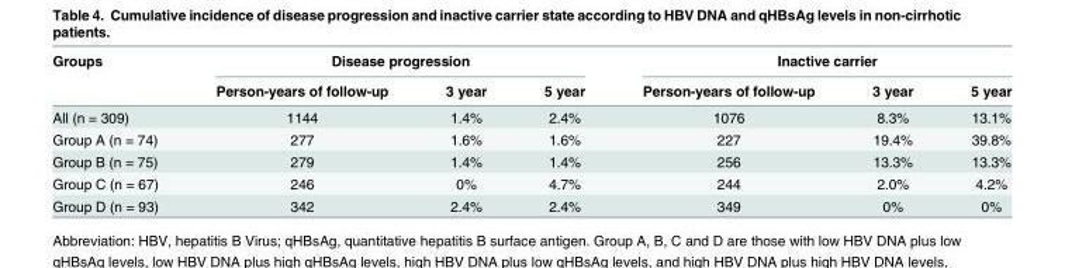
<table><thead><tr><td rowspan="2">Groups</td><td colspan="3">Disease progression</td><td colspan="3">Inactive carrier</td></tr><tr><td>Person-years of follow-up</td><td>3 year</td><td>5 year</td><td>Person-years of follow-up</td><td>3 year</td><td>5 year</td></tr></thead><tbody><tr><td>All (n = 309)</td><td>1144</td><td>1.4%</td><td>2.4%</td><td>1076</td><td>8.3%</td><td>13.1%</td></tr><tr><td>Group A (n = 74)</td><td>277</td><td>1.6%</td><td>1.6%</td><td>227</td><td>19.4%</td><td>39.8%</td></tr><tr><td>Group B (n = 75)</td><td>279</td><td>1.4%</td><td>1.4%</td><td>256</td><td>13.3%</td><td>13.3%</td></tr><tr><td>Group C (n = 67)</td><td>246</td><td>0%</td><td>4.7%</td><td>244</td><td>2.0%</td><td>4.2%</td></tr><tr><td>Group D (n = 93)</td><td>342</td><td>2.4%</td><td>2.4%</td><td>349</td><td>0%</td><td>0%</td></tr></tbody></table>